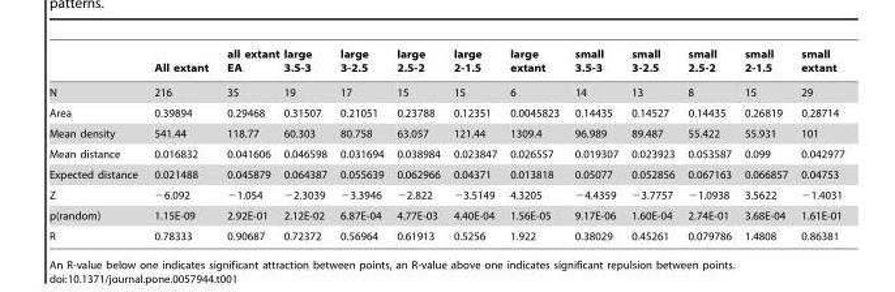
<table><thead><tr><td></td><td>All extant</td><td>all extant EA</td><td>large 3.5-3</td><td>large 3-2.5</td><td>large 2.5-2</td><td>large 2-1.5</td><td>large extant</td><td>small 3.5-3</td><td>small 3-2.5</td><td>small 2.5-2</td><td>small 2-1.5</td><td>small extant</td></tr></thead><tbody><tr><td>N</td><td>216</td><td>35</td><td>19</td><td>17</td><td>15</td><td>15</td><td>6</td><td>14</td><td>13</td><td>8</td><td>15</td><td>29</td></tr><tr><td>Area</td><td>0.39894</td><td>0.29468</td><td>0.31507</td><td>0.21051</td><td>0.23788</td><td>0.12351</td><td>0.0045823</td><td>0.14435</td><td>0.14527</td><td>0.14435</td><td>0.26819</td><td>0.28714</td></tr><tr><td>Mean density</td><td>541.44</td><td>118.77</td><td>60.303</td><td>80.758</td><td>63.057</td><td>121.44</td><td>1309.4</td><td>96.989</td><td>89.487</td><td>55.422</td><td>55.931</td><td>101</td></tr><tr><td>Mean distance</td><td>0.016832</td><td>0.041606</td><td>0.046598</td><td>0.031694</td><td>0.038984</td><td>0.023847</td><td>0.026557</td><td>0.019307</td><td>0.023923</td><td>0.053587</td><td>0.099</td><td>0.042977</td></tr><tr><td>Expected distance</td><td>0.021488</td><td>0.045879</td><td>0.064387</td><td>0.055639</td><td>0.062966</td><td>0.04371</td><td>0.013818</td><td>0.05077</td><td>0.052856</td><td>0.067163</td><td>0.066857</td><td>0.04753</td></tr><tr><td>Z</td><td>−6.092</td><td>−1.054</td><td>−2.3039</td><td>−3.3946</td><td>−2.822</td><td>−3.5149</td><td>4.3205</td><td>−4.4359</td><td>−3.7757</td><td>−1.0938</td><td>3.5622</td><td>−1.4031</td></tr><tr><td>p(random)</td><td>1.15E-09</td><td>2.92E-01</td><td>2.12E-02</td><td>6.87E-04</td><td>4.77E-03</td><td>4.40E-04</td><td>1.56E-05</td><td>9.17E-06</td><td>1.60E-04</td><td>2.74E-01</td><td>3.68E-04</td><td>1.61E-01</td></tr><tr><td>R</td><td>0.78333</td><td>0.90687</td><td>0.72372</td><td>0.56964</td><td>0.61913</td><td>0.5256</td><td>1.922</td><td>0.38029</td><td>0.45261</td><td>0.079786</td><td>1.4808</td><td>0.86381</td></tr></tbody></table>